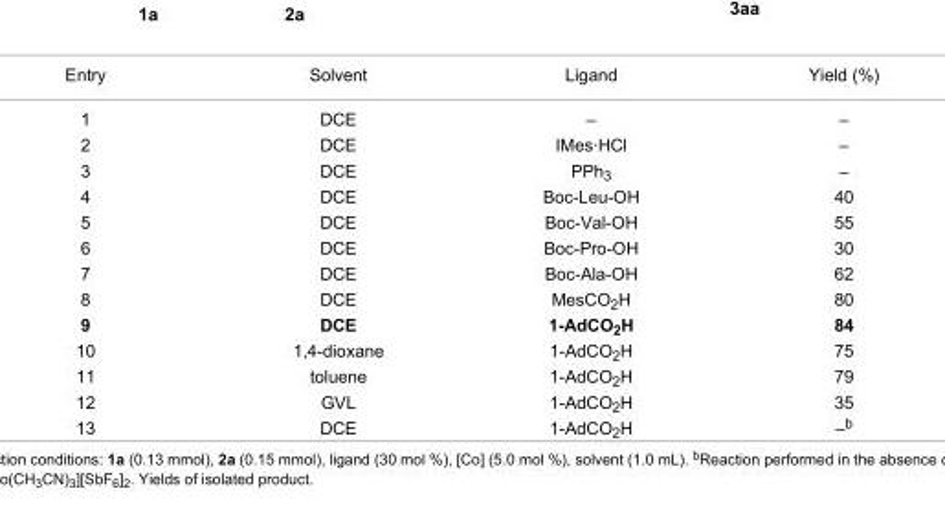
<table><tbody><tr><td>Entry</td><td>Solvent</td><td>Ligand</td><td>Yield (%)</td></tr><tr><td>1</td><td>DCE</td><td>–</td><td>–</td></tr><tr><td>2</td><td>DCE</td><td>IMes·HCl</td><td>–</td></tr><tr><td>3</td><td>DCE</td><td>PPh<sub>3</sub></td><td>–</td></tr><tr><td>4</td><td>DCE</td><td>Boc-Leu-OH</td><td>40</td></tr><tr><td>5</td><td>DCE</td><td>Boc-Val-OH</td><td>55</td></tr><tr><td>6</td><td>DCE</td><td>Boc-Pro-OH</td><td>30</td></tr><tr><td>7</td><td>DCE</td><td>Boc-Ala-OH</td><td>62</td></tr><tr><td>8</td><td>DCE</td><td>MesCO<sub>2</sub>H</td><td>80</td></tr><tr><td>9</td><td>DCE</td><td>1-AdCO<sub>2</sub>H</td><td>84</td></tr><tr><td>10</td><td>1,4-dioxane</td><td>1-AdCO<sub>2</sub>H</td><td>75</td></tr><tr><td>11</td><td>toluene</td><td>1-AdCO<sub>2</sub>H</td><td>79</td></tr><tr><td>12</td><td>GVL</td><td>1-AdCO<sub>2</sub>H</td><td>35</td></tr><tr><td>13</td><td>DCE</td><td>1-AdCO<sub>2</sub>H</td><td>–<sup>b</sup></td></tr></tbody></table>